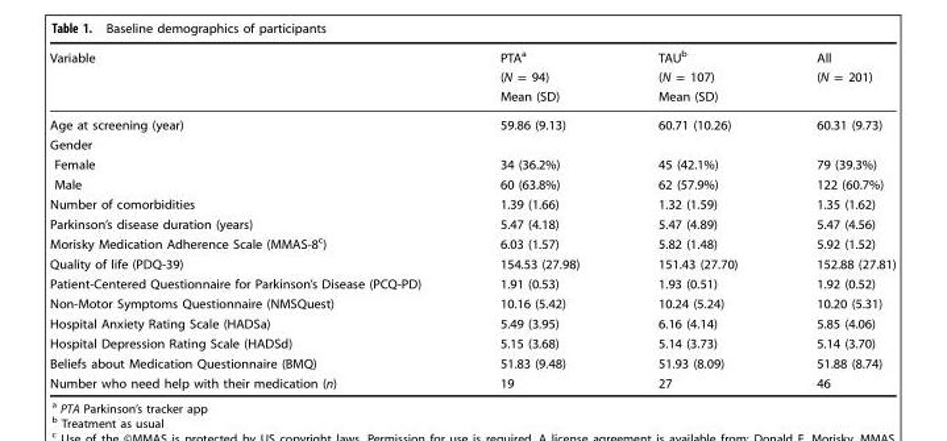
<table><thead><tr><td rowspan="3">Variable</td><td rowspan="3">PTA<sup>a</sup> (N = 94) Mean (SD)</td><td rowspan="3">TAU<sup>b</sup> (N = 107) Mean (SD)</td><td rowspan="3">All (N = 201)</td></tr><tr></tr><tr></tr></thead><tbody><tr><td>Age at screening (year)</td><td>59.86 (9.13)</td><td>60.71 (10.26)</td><td>60.31 (9.73)</td></tr><tr><td colspan="4">Gender</td></tr><tr><td>Female</td><td>34 (36.2%)</td><td>45 (42.1%)</td><td>79 (39.3%)</td></tr><tr><td>Male</td><td>60 (63.8%)</td><td>62 (57.9%)</td><td>122 (60.7%)</td></tr><tr><td>Number of comorbidities</td><td>1.39 (1.66)</td><td>1.32 (1.59)</td><td>1.35 (1.62)</td></tr><tr><td>Parkinson’s disease duration (years)</td><td>5.47 (4.18)</td><td>5.47 (4.89)</td><td>5.47 (4.56)</td></tr><tr><td>Morisky Medication Adherence Scale (MMAS-8<sup>c</sup>)</td><td>6.03 (1.57)</td><td>5.82 (1.48)</td><td>5.92 (1.52)</td></tr><tr><td>Quality of life (PDQ-39)</td><td>154.53 (27.98)</td><td>151.43 (27.70)</td><td>152.88 (27.81)</td></tr><tr><td>Patient-Centered Questionnaire for Parkinson’s Disease (PCQ-PD)</td><td>1.91 (0.53)</td><td>1.93 (0.51)</td><td>1.92 (0.52)</td></tr><tr><td>Non-Motor Symptoms Questionnaire (NMSQuest)</td><td>10.16 (5.42)</td><td>10.24 (5.24)</td><td>10.20 (5.31)</td></tr><tr><td>Hospital Anxiety Rating Scale (HADSa)</td><td>5.49 (3.95)</td><td>6.16 (4.14)</td><td>5.85 (4.06)</td></tr><tr><td>Hospital Depression Rating Scale (HADSd)</td><td>5.15 (3.68)</td><td>5.14 (3.73)</td><td>5.14 (3.70)</td></tr><tr><td>Beliefs about Medication Questionnaire (BMQ)</td><td>51.83 (9.48)</td><td>51.93 (8.09)</td><td>51.88 (8.74)</td></tr><tr><td>Number who need help with their medication (n)</td><td>19</td><td>27</td><td>46</td></tr></tbody></table>